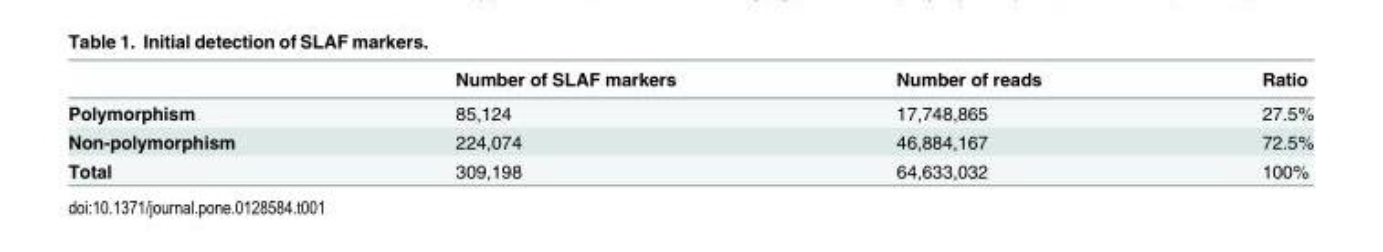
<table><thead><tr><td></td><td>Number of SLAF markers</td><td>Number of reads</td><td>Ratio</td></tr></thead><tbody><tr><td>Polymorphism</td><td>85,124</td><td>17,748,865</td><td>27.5%</td></tr><tr><td>Non-polymorphism</td><td>224,074</td><td>46,884,167</td><td>72.5%</td></tr><tr><td>Total</td><td>309,198</td><td>64,633,032</td><td>100%</td></tr></tbody></table>